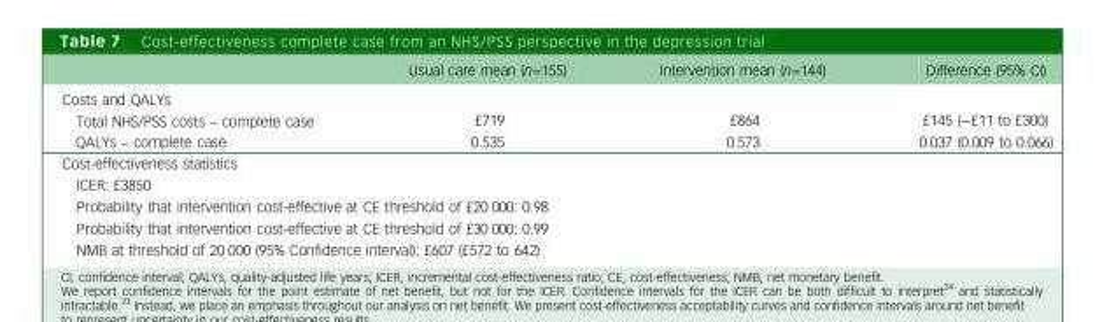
<table><thead><tr><td></td><td>Usual care mean (n=155)</td><td>Intervention mean (n=144)</td><td>Difference (95% CI)</td></tr></thead><tbody><tr><td colspan="4">Costs and QALYs</td></tr><tr><td>Total NHS/PSS costs – complete case</td><td>£719</td><td>£864</td><td>£145 (−£11 to £300)</td></tr><tr><td>QALYs – complete case</td><td>0.535</td><td>0.573</td><td>0.037 (0.009 to 0.066)</td></tr><tr><td colspan="4">Cost-effectiveness statistics</td></tr><tr><td colspan="4">ICER: £3850</td></tr><tr><td colspan="4">Probability that intervention cost-effective at CE threshold of £20 000: 0.98</td></tr><tr><td colspan="4">Probability that intervention cost-effective at CE threshold of £30 000: 0.99</td></tr><tr><td colspan="4">NMB at threshold of 20 000 (95% Confidence interval): £607 (£572 to 642)</td></tr></tbody></table>